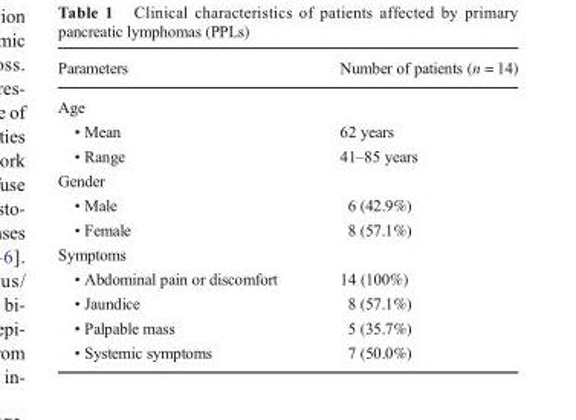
<table><thead><tr><td>Parameters</td><td>Number of patients (n = 14)</td></tr></thead><tbody><tr><td colspan="2">Age</td></tr><tr><td>• Mean</td><td>62 years</td></tr><tr><td>• Range</td><td>41–85 years</td></tr><tr><td colspan="2">Gender</td></tr><tr><td>• Male</td><td>6 (42.9%)</td></tr><tr><td>• Female</td><td>8 (57.1%)</td></tr><tr><td colspan="2">Symptoms</td></tr><tr><td>• Abdominal pain or discomfort</td><td>14 (100%)</td></tr><tr><td>• Jaundice</td><td>8 (57.1%)</td></tr><tr><td>• Palpable mass</td><td>5 (35.7%)</td></tr><tr><td>• Systemic symptoms</td><td>7 (50.0%)</td></tr></tbody></table>